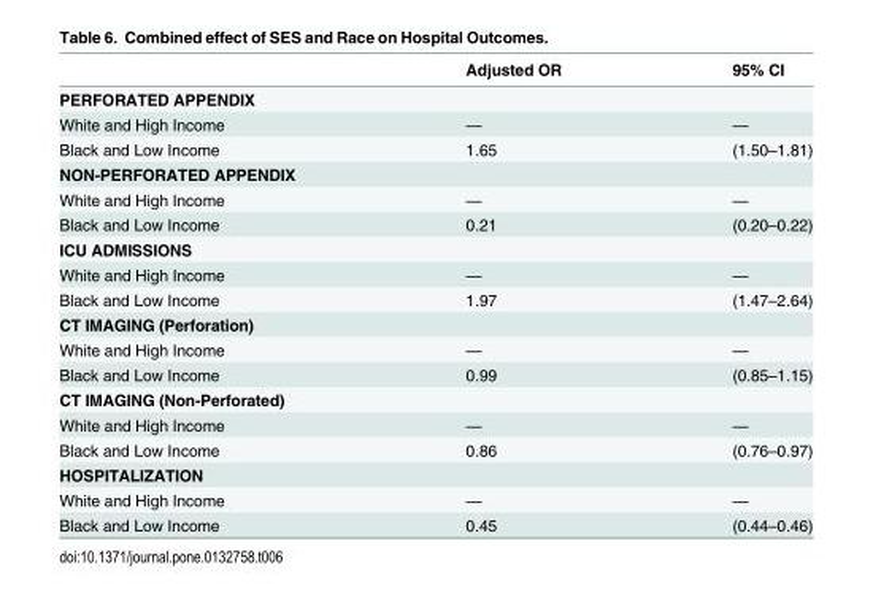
<table><thead><tr><td></td><td>Adjusted OR</td><td>95% CI</td></tr></thead><tbody><tr><td colspan="3">PERFORATED APPENDIX</td></tr><tr><td>White and High Income</td><td>—</td><td>—</td></tr><tr><td>Black and Low Income</td><td>1.65</td><td>(1.50–1.81)</td></tr><tr><td colspan="3">NON-PERFORATED APPENDIX</td></tr><tr><td>White and High Income</td><td>—</td><td>—</td></tr><tr><td>Black and Low Income</td><td>0.21</td><td>(0.20–0.22)</td></tr><tr><td colspan="3">ICU ADMISSIONS</td></tr><tr><td>White and High Income</td><td>—</td><td>—</td></tr><tr><td>Black and Low Income</td><td>1.97</td><td>(1.47–2.64)</td></tr><tr><td colspan="3">CT IMAGING (Perforation)</td></tr><tr><td>White and High Income</td><td>—</td><td>—</td></tr><tr><td>Black and Low Income</td><td>0.99</td><td>(0.85–1.15)</td></tr><tr><td colspan="3">CT IMAGING (Non-Perforated)</td></tr><tr><td>White and High Income</td><td>—</td><td>—</td></tr><tr><td>Black and Low Income</td><td>0.86</td><td>(0.76–0.97)</td></tr><tr><td colspan="3">HOSPITALIZATION</td></tr><tr><td>White and High Income</td><td>—</td><td>—</td></tr><tr><td>Black and Low Income</td><td>0.45</td><td>(0.44–0.46)</td></tr></tbody></table>